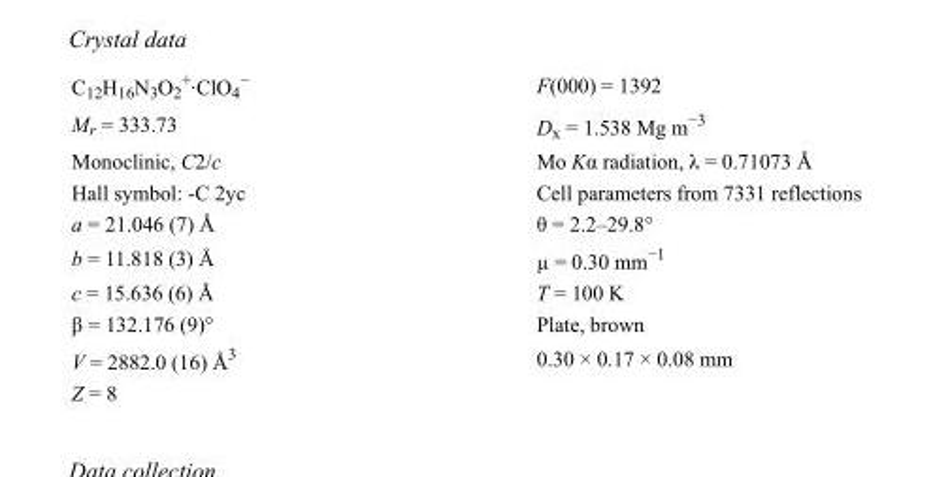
<table><tbody><tr><td>C<sub>12</sub>H<sub>16</sub>N<sub>3</sub>O<sub>2</sub> <sup>+</sup>·ClO<sub>4</sub> <sup>−</sup></td><td>F(000) = 1392</td></tr><tr><td>M<sub>r</sub> = 333.73</td><td>D<sub>x</sub> = 1.538 Mg m<sup>−3</sup></td></tr><tr><td>Monoclinic, C2/c</td><td>Mo Kα radiation, λ = 0.71073 Å</td></tr><tr><td>Hall symbol: -C 2yc</td><td>Cell parameters from 7331 reflections</td></tr><tr><td>a = 21.046 (7) Å</td><td>θ = 2.2–29.8°</td></tr><tr><td>b = 11.818 (3) Å</td><td>µ = 0.30 mm<sup>−1</sup></td></tr><tr><td>c = 15.636 (6) Å</td><td>T = 100 K</td></tr><tr><td>β = 132.176 (9)°</td><td>Plate, brown</td></tr><tr><td>V = 2882.0 (16) Å<sup>3</sup></td><td>0.30 × 0.17 × 0.08 mm</td></tr><tr><td>Z = 8</td><td></td></tr></tbody></table>